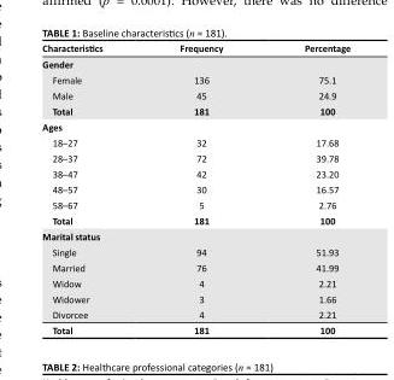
<table><thead><tr><td>Characteristics</td><td>Frequency</td><td>Percentage</td></tr></thead><tbody><tr><td colspan="3">Gender</td></tr><tr><td>Female</td><td>136</td><td>75.1</td></tr><tr><td>Male</td><td>45</td><td>24.9</td></tr><tr><td>Total</td><td>181</td><td>100</td></tr><tr><td colspan="3">Ages</td></tr><tr><td>18–27</td><td>32</td><td>17.68</td></tr><tr><td>28–37</td><td>72</td><td>39.78</td></tr><tr><td>38–47</td><td>42</td><td>23.20</td></tr><tr><td>48–57</td><td>30</td><td>16.57</td></tr><tr><td>58–67</td><td>5</td><td>2.76</td></tr><tr><td>Total</td><td>181</td><td>100</td></tr><tr><td colspan="3">Marital status</td></tr><tr><td>Single</td><td>94</td><td>51.93</td></tr><tr><td>Married</td><td>76</td><td>41.99</td></tr><tr><td>Widow</td><td>4</td><td>2.21</td></tr><tr><td>Widower</td><td>3</td><td>1.66</td></tr><tr><td>Divorcee</td><td>4</td><td>2.21</td></tr><tr><td>Total</td><td>181</td><td>100</td></tr></tbody></table>